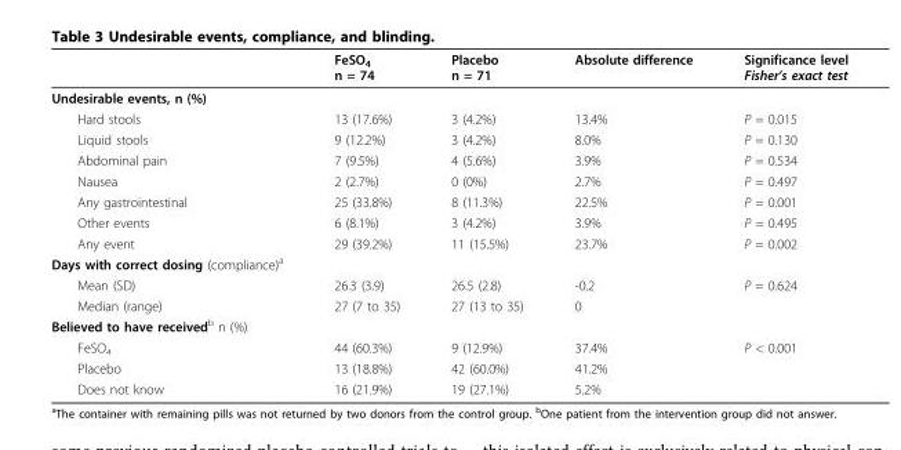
<table><thead><tr><td></td><td>FeSO<sub>4</sub> n = 74</td><td>Placebo n = 71</td><td>Absolute difference</td><td>Significance level Fisher’s exact test</td></tr></thead><tbody><tr><td colspan="5">Undesirable events, n (%)</td></tr><tr><td>Hard stools</td><td>13 (17.6%)</td><td>3 (4.2%)</td><td>13.4%</td><td>P = 0.015</td></tr><tr><td>Liquid stools</td><td>9 (12.2%)</td><td>3 (4.2%)</td><td>8.0%</td><td>P = 0.130</td></tr><tr><td>Abdominal pain</td><td>7 (9.5%)</td><td>4 (5.6%)</td><td>3.9%</td><td>P = 0.534</td></tr><tr><td>Nausea</td><td>2 (2.7%)</td><td>0 (0%)</td><td>2.7%</td><td>P = 0.497</td></tr><tr><td>Any gastrointestinal</td><td>25 (33.8%)</td><td>8 (11.3%)</td><td>22.5%</td><td>P = 0.001</td></tr><tr><td>Other events</td><td>6 (8.1%)</td><td>3 (4.2%)</td><td>3.9%</td><td>P = 0.495</td></tr><tr><td>Any event</td><td>29 (39.2%)</td><td>11 (15.5%)</td><td>23.7%</td><td>P = 0.002</td></tr><tr><td colspan="5">Days with correct dosing (compliance)<sup>a</sup></td></tr><tr><td>Mean (SD)</td><td>26.3 (3.9)</td><td>26.5 (2.8)</td><td>-0.2</td><td>P = 0.624</td></tr><tr><td>Median (range)</td><td>27 (7 to 35)</td><td>27 (13 to 35)</td><td>0</td><td></td></tr><tr><td colspan="5">Believed to have received<sup>b</sup> n (%)</td></tr><tr><td>FeSO<sub>4</sub></td><td>44 (60.3%)</td><td>9 (12.9%)</td><td>37.4%</td><td>P &lt; 0.001</td></tr><tr><td>Placebo</td><td>13 (18.8%)</td><td>42 (60.0%)</td><td>41.2%</td><td></td></tr><tr><td>Does not know</td><td>16 (21.9%)</td><td>19 (27.1%)</td><td>5.2%</td><td></td></tr></tbody></table>